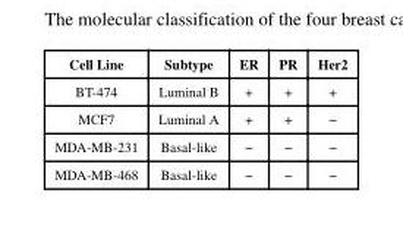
<table><thead><tr><td>Cell Line</td><td>Subtype</td><td>ER</td><td>PR</td><td>Her2</td></tr></thead><tbody><tr><td>BT-474</td><td>Luminal B</td><td>+</td><td>+</td><td>+</td></tr><tr><td>MCF7</td><td>Luminal A</td><td>+</td><td>+</td><td>−</td></tr><tr><td>MDA-MB-231</td><td>Basal-like</td><td>−</td><td>−</td><td>−</td></tr><tr><td>MDA-MB-468</td><td>Basal-like</td><td>−</td><td>−</td><td>−</td></tr></tbody></table>